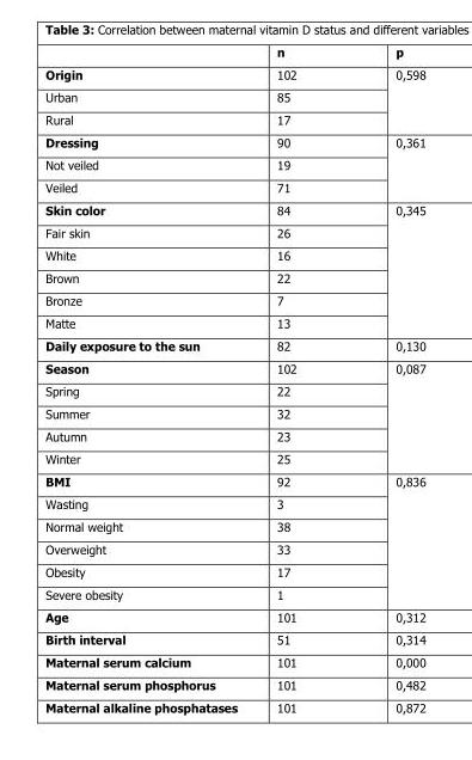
<table><thead><tr><td></td><td>n</td><td>p</td></tr></thead><tbody><tr><td>Origin</td><td>102</td><td rowspan="3">0,598</td></tr><tr><td>Urban</td><td>85</td></tr><tr><td>Rural</td><td>17</td></tr><tr><td>Dressing</td><td>90</td><td rowspan="3">0,361</td></tr><tr><td>Not veiled</td><td>19</td></tr><tr><td>Veiled</td><td>71</td></tr><tr><td>Skin color</td><td>84</td><td rowspan="6">0,345</td></tr><tr><td>Fair skin</td><td>26</td></tr><tr><td>White</td><td>16</td></tr><tr><td>Brown</td><td>22</td></tr><tr><td>Bronze</td><td>7</td></tr><tr><td>Matte</td><td>13</td></tr><tr><td>Daily exposure to the sun</td><td>82</td><td>0,130</td></tr><tr><td>Season</td><td>102</td><td rowspan="5">0,087</td></tr><tr><td>Spring</td><td>22</td></tr><tr><td>Summer</td><td>32</td></tr><tr><td>Autumn</td><td>23</td></tr><tr><td>Winter</td><td>25</td></tr><tr><td>BMI</td><td>92</td><td rowspan="6">0,836</td></tr><tr><td>Wasting</td><td>3</td></tr><tr><td>Normal weight</td><td>38</td></tr><tr><td>Overweight</td><td>33</td></tr><tr><td>Obesity</td><td>17</td></tr><tr><td>Severe obesity</td><td>1</td></tr><tr><td>Age</td><td>101</td><td>0,312</td></tr><tr><td>Birth interval</td><td>51</td><td>0,314</td></tr><tr><td>Maternal serum calcium</td><td>101</td><td>0,000</td></tr><tr><td>Maternal serum phosphorus</td><td>101</td><td>0,482</td></tr><tr><td>Maternal alkaline phosphatases</td><td>101</td><td>0,872</td></tr></tbody></table>